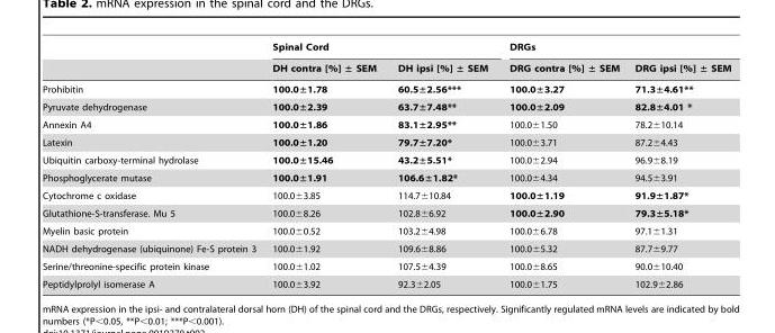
<table><thead><tr><td rowspan="2"></td><td colspan="2">Spinal Cord</td><td colspan="2">DRGs</td></tr><tr><td>DH contra [%] ± SEM</td><td>DH ipsi [%] ± SEM</td><td>DRG contra [%] ± SEM</td><td>DRG ipsi [%] ± SEM</td></tr></thead><tbody><tr><td>Prohibitin</td><td>100.0±1.78</td><td>60.5±2.56***</td><td>100.0±3.27</td><td>71.3±4.61**</td></tr><tr><td>Pyruvate dehydrogenase</td><td>100.0±2.39</td><td>63.7±7.48**</td><td>100.0±2.09</td><td>82.8±4.01 *</td></tr><tr><td>Annexin A4</td><td>100.0±1.86</td><td>83.1±2.95**</td><td>100.0±1.50</td><td>78.2±10.14</td></tr><tr><td>Latexin</td><td>100.0±1.20</td><td>79.7±7.20*</td><td>100.0±3.71</td><td>87.2±4.43</td></tr><tr><td>Ubiquitin carboxy-terminal hydrolase</td><td>100.0±15.46</td><td>43.2±5.51*</td><td>100.0±2.94</td><td>96.9±8.19</td></tr><tr><td>Phosphoglycerate mutase</td><td>100.0±1.91</td><td>106.6±1.82*</td><td>100.0±4.34</td><td>94.5±3.91</td></tr><tr><td>Cytochrome c oxidase</td><td>100.0±3.85</td><td>114.7±10.84</td><td>100.0±1.19</td><td>91.9±1.87*</td></tr><tr><td>Glutathione-S-transferase. Mu 5</td><td>100.0±8.26</td><td>102.8±6.92</td><td>100.0±2.90</td><td>79.3±5.18*</td></tr><tr><td>Myelin basic protein</td><td>100.0±0.52</td><td>103.2±4.98</td><td>100.0±6.78</td><td>97.1±1.31</td></tr><tr><td>NADH dehydrogenase (ubiquinone) Fe-S protein 3</td><td>100.0±1.92</td><td>109.6±8.86</td><td>100.0±5.32</td><td>87.7±9.77</td></tr><tr><td>Serine/threonine-specific protein kinase</td><td>100.0±1.02</td><td>107.5±4.39</td><td>100.0±8.65</td><td>90.0±10.40</td></tr><tr><td>Peptidylprolyl isomerase A</td><td>100.0±3.92</td><td>92.3±2.05</td><td>100.0±1.75</td><td>102.9±2.86</td></tr></tbody></table>